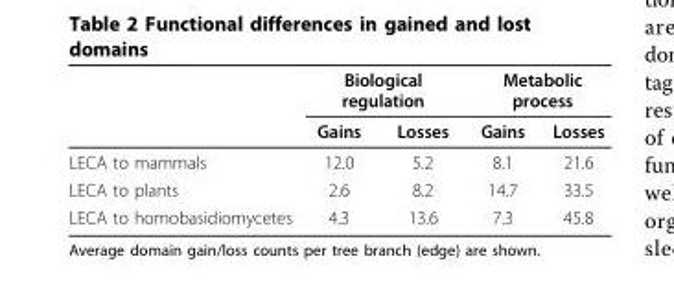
<table><thead><tr><td rowspan="2"></td><td colspan="2">Biological regulation</td><td colspan="2">Metabolic process</td></tr><tr><td>Gains</td><td>Losses</td><td>Gains</td><td>Losses</td></tr></thead><tbody><tr><td>LECA to mammals</td><td>12.0</td><td>5.2</td><td>8.1</td><td>21.6</td></tr><tr><td>LECA to plants</td><td>2.6</td><td>8.2</td><td>14.7</td><td>33.5</td></tr><tr><td>LECA to homobasidiomycetes</td><td>4.3</td><td>13.6</td><td>7.3</td><td>45.8</td></tr></tbody></table>